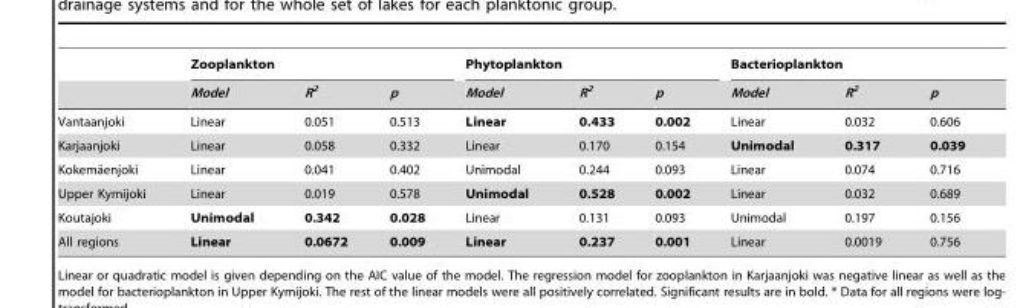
<table><thead><tr><td rowspan="2"></td><td colspan="3">Zooplankton</td><td colspan="3">Phytoplankton</td><td colspan="3">Bacterioplankton</td></tr><tr><td>Model</td><td>R<sup>2</sup></td><td>p</td><td>Model</td><td>R<sup>2</sup></td><td>p</td><td>Model</td><td>R<sup>2</sup></td><td>p</td></tr></thead><tbody><tr><td>Vantaanjoki</td><td>Linear</td><td>0.051</td><td>0.513</td><td>Linear</td><td>0.433</td><td>0.002</td><td>Linear</td><td>0.032</td><td>0.606</td></tr><tr><td>Karjaanjoki</td><td>Linear</td><td>0.058</td><td>0.332</td><td>Linear</td><td>0.170</td><td>0.154</td><td>Unimodal</td><td>0.317</td><td>0.039</td></tr><tr><td>Kokema¨enjoki</td><td>Linear</td><td>0.041</td><td>0.402</td><td>Unimodal</td><td>0.244</td><td>0.093</td><td>Linear</td><td>0.074</td><td>0.716</td></tr><tr><td>Upper Kymijoki</td><td>Linear</td><td>0.019</td><td>0.578</td><td>Unimodal</td><td>0.528</td><td>0.002</td><td>Linear</td><td>0.032</td><td>0.689</td></tr><tr><td>Koutajoki</td><td>Unimodal</td><td>0.342</td><td>0.028</td><td>Linear</td><td>0.131</td><td>0.093</td><td>Unimodal</td><td>0.197</td><td>0.156</td></tr><tr><td>All regions</td><td>Linear</td><td>0.0672</td><td>0.009</td><td>Linear</td><td>0.237</td><td>0.001</td><td>Linear</td><td>0.0019</td><td>0.756</td></tr></tbody></table>